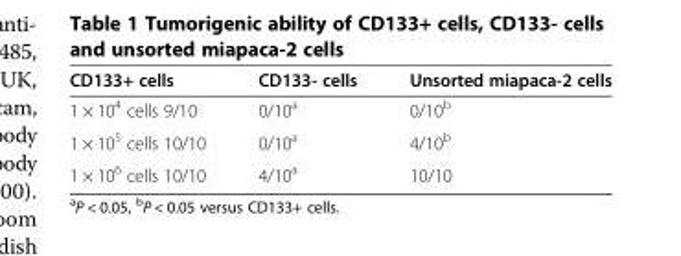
<table><thead><tr><td>CD133+ cells</td><td>CD133- cells</td><td>Unsorted miapaca-2 cells</td></tr></thead><tbody><tr><td>1 × 10<sup>4</sup> cells 9/10</td><td>0/10<sup>a</sup></td><td>0/10<sup>b</sup></td></tr><tr><td>1 × 10<sup>5</sup> cells 10/10</td><td>0/10<sup>a</sup></td><td>4/10<sup>b</sup></td></tr><tr><td>1 × 10<sup>6</sup> cells 10/10</td><td>4/10<sup>a</sup></td><td>10/10</td></tr></tbody></table>